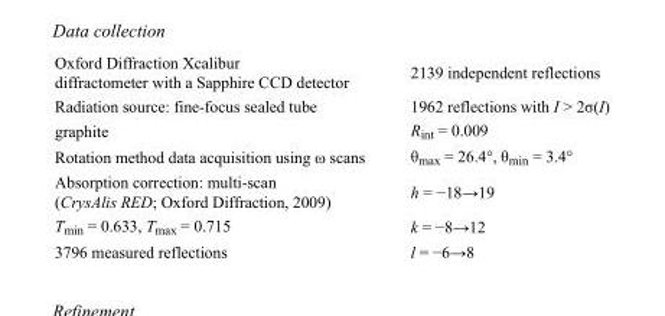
<table><tbody><tr><td>Oxford Diffraction Xcalibur diffractometer with a Sapphire CCD detector</td><td>2139 independent reflections</td></tr><tr><td>Radiation source: fine-focus sealed tube</td><td>1962 reflections with I &gt; 2σ(I)</td></tr><tr><td>graphite</td><td>R<sub>int</sub> = 0.009</td></tr><tr><td>Rotation method data acquisition using ω scans</td><td>θ<sub>max</sub> = 26.4°, θ<sub>min</sub> = 3.4°</td></tr><tr><td>Absorption correction: multi-scan (CrysAlis RED; Oxford Diffraction, 2009)</td><td>h = −18→19</td></tr><tr><td>T<sub>min</sub> = 0.633, T<sub>max</sub> = 0.715</td><td>k = −8→12</td></tr><tr><td>3796 measured reflections</td><td>l = −6→8</td></tr></tbody></table>